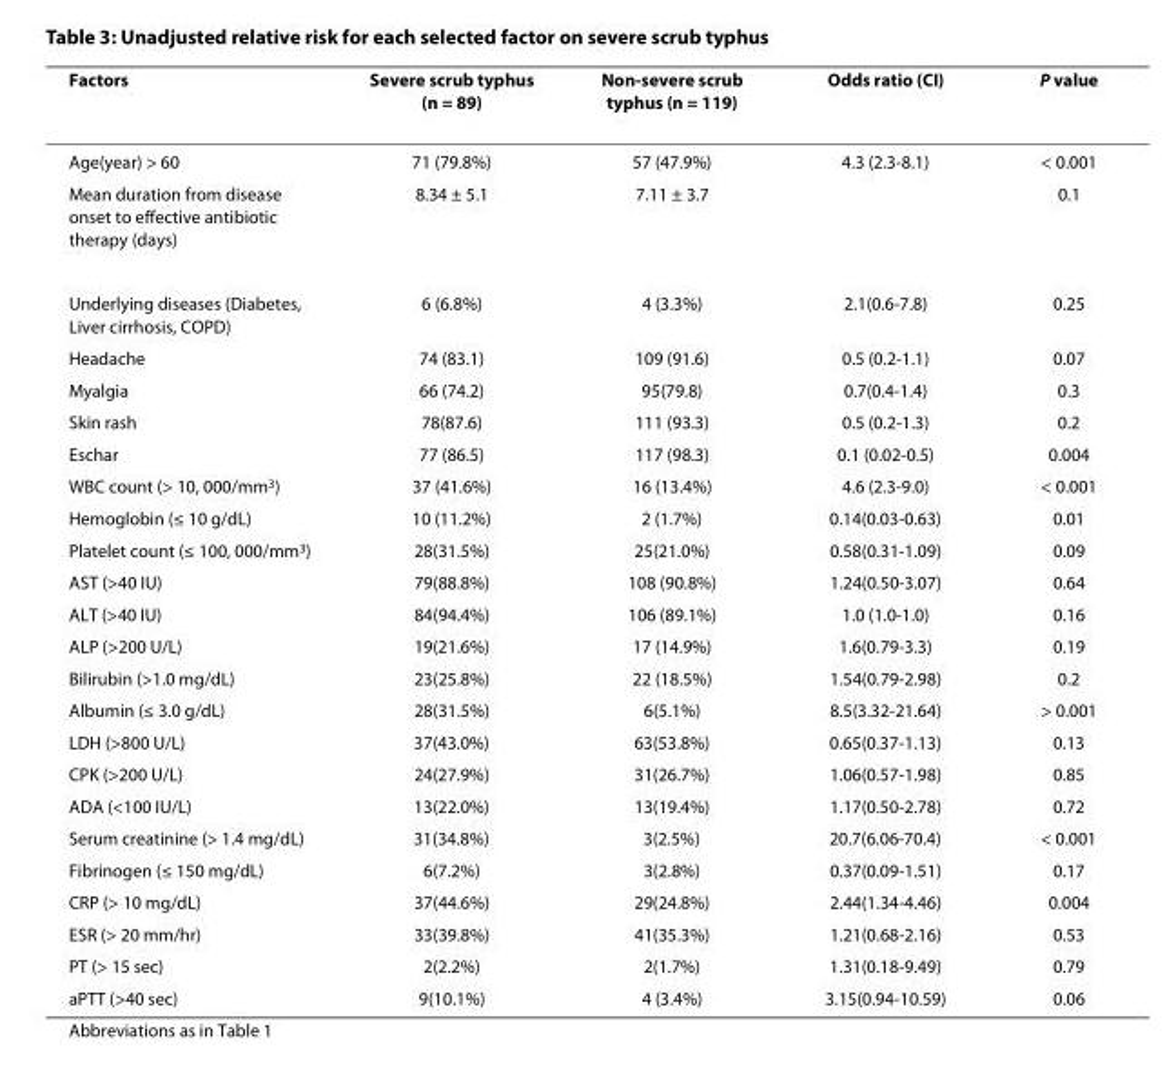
<table><thead><tr><td>Factors</td><td>Severe scrub typhus (n = 89)</td><td>Non-severe scrub typhus (n = 119)</td><td>Odds ratio (CI)</td><td>P value</td></tr></thead><tbody><tr><td>Age(year) &gt; 60</td><td>71 (79.8%)</td><td>57 (47.9%)</td><td>4.3 (2.3-8.1)</td><td>&lt; 0.001</td></tr><tr><td>Mean duration from disease onset to effective antibiotic therapy (days)</td><td>8.34 ± 5.1</td><td>7.11 ± 3.7</td><td></td><td>0.1</td></tr><tr><td>Underlying diseases (Diabetes, Liver cirrhosis, COPD)</td><td>6 (6.8%)</td><td>4 (3.3%)</td><td>2.1(0.6-7.8)</td><td>0.25</td></tr><tr><td>Headache</td><td>74 (83.1)</td><td>109 (91.6)</td><td>0.5 (0.2-1.1)</td><td>0.07</td></tr><tr><td>Myalgia</td><td>66 (74.2)</td><td>95(79.8)</td><td>0.7(0.4-1.4)</td><td>0.3</td></tr><tr><td>Skin rash</td><td>78(87.6)</td><td>111 (93.3)</td><td>0.5 (0.2-1.3)</td><td>0.2</td></tr><tr><td>Eschar</td><td>77 (86.5)</td><td>117 (98.3)</td><td>0.1 (0.02-0.5)</td><td>0.004</td></tr><tr><td>WBC count (&gt; 10, 000/mm<sup>3</sup>)</td><td>37 (41.6%)</td><td>16 (13.4%)</td><td>4.6 (2.3-9.0)</td><td>&lt; 0.001</td></tr><tr><td>Hemoglobin (≤ 10 g/dL)</td><td>10 (11.2%)</td><td>2 (1.7%)</td><td>0.14(0.03-0.63)</td><td>0.01</td></tr><tr><td>Platelet count (≤ 100, 000/mm<sup>3</sup>)</td><td>28(31.5%)</td><td>25(21.0%)</td><td>0.58(0.31-1.09)</td><td>0.09</td></tr><tr><td>AST (&gt;40 IU)</td><td>79(88.8%)</td><td>108 (90.8%)</td><td>1.24(0.50-3.07)</td><td>0.64</td></tr><tr><td>ALT (&gt;40 IU)</td><td>84(94.4%)</td><td>106 (89.1%)</td><td>1.0 (1.0-1.0)</td><td>0.16</td></tr><tr><td>ALP (&gt;200 U/L)</td><td>19(21.6%)</td><td>17 (14.9%)</td><td>1.6(0.79-3.3)</td><td>0.19</td></tr><tr><td>Bilirubin (&gt;1.0 mg/dL)</td><td>23(25.8%)</td><td>22 (18.5%)</td><td>1.54(0.79-2.98)</td><td>0.2</td></tr><tr><td>Albumin (≤ 3.0 g/dL)</td><td>28(31.5%)</td><td>6(5.1%)</td><td>8.5(3.32-21.64)</td><td>&gt; 0.001</td></tr><tr><td>LDH (&gt;800 U/L)</td><td>37(43.0%)</td><td>63(53.8%)</td><td>0.65(0.37-1.13)</td><td>0.13</td></tr><tr><td>CPK (&gt;200 U/L)</td><td>24(27.9%)</td><td>31(26.7%)</td><td>1.06(0.57-1.98)</td><td>0.85</td></tr><tr><td>ADA (&lt;100 IU/L)</td><td>13(22.0%)</td><td>13(19.4%)</td><td>1.17(0.50-2.78)</td><td>0.72</td></tr><tr><td>Serum creatinine (&gt; 1.4 mg/dL)</td><td>31(34.8%)</td><td>3(2.5%)</td><td>20.7(6.06-70.4)</td><td>&lt; 0.001</td></tr><tr><td>Fibrinogen (≤ 150 mg/dL)</td><td>6(7.2%)</td><td>3(2.8%)</td><td>0.37(0.09-1.51)</td><td>0.17</td></tr><tr><td>CRP (&gt; 10 mg/dL)</td><td>37(44.6%)</td><td>29(24.8%)</td><td>2.44(1.34-4.46)</td><td>0.004</td></tr><tr><td>ESR (&gt; 20 mm/hr)</td><td>33(39.8%)</td><td>41(35.3%)</td><td>1.21(0.68-2.16)</td><td>0.53</td></tr><tr><td>PT (&gt; 15 sec)</td><td>2(2.2%)</td><td>2(1.7%)</td><td>1.31(0.18-9.49)</td><td>0.79</td></tr><tr><td>aPTT (&gt;40 sec)</td><td>9(10.1%)</td><td>4 (3.4%)</td><td>3.15(0.94-10.59)</td><td>0.06</td></tr></tbody></table>